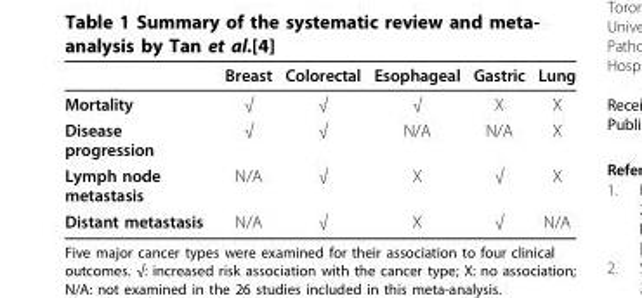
<table><thead><tr><td></td><td>Breast</td><td>Colorectal</td><td>Esophageal</td><td>Gastric</td><td>Lung</td></tr></thead><tbody><tr><td>Mortality</td><td>√</td><td>√</td><td>√</td><td>X</td><td>X</td></tr><tr><td>Disease progression</td><td>√</td><td>√</td><td>N/A</td><td>N/A</td><td>X</td></tr><tr><td>Lymph node metastasis</td><td>N/A</td><td>√</td><td>X</td><td>√</td><td>X</td></tr><tr><td>Distant metastasis</td><td>N/A</td><td>√</td><td>X</td><td>√</td><td>N/A</td></tr></tbody></table>